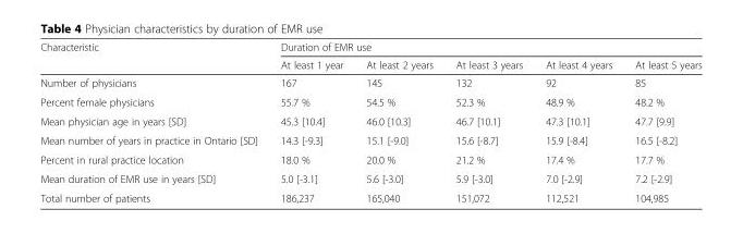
<table><thead><tr><td rowspan="2">Characteristic</td><td colspan="5">Duration of EMR use</td></tr><tr><td>At least 1 year</td><td>At least 2 years</td><td>At least 3 years</td><td>At least 4 years</td><td>At least 5 years</td></tr></thead><tbody><tr><td>Number of physicians</td><td>167</td><td>145</td><td>132</td><td>92</td><td>85</td></tr><tr><td>Percent female physicians</td><td>55.7 %</td><td>54.5 %</td><td>52.3 %</td><td>48.9 %</td><td>48.2 %</td></tr><tr><td>Mean physician age in years [SD]</td><td>45.3 [10.4]</td><td>46.0 [10.3]</td><td>46.7 [10.1]</td><td>47.3 [10.1]</td><td>47.7 [9.9]</td></tr><tr><td>Mean number of years in practice in Ontario [SD]</td><td>14.3 [-9.3]</td><td>15.1 [-9.0]</td><td>15.6 [-8.7]</td><td>15.9 [-8.4]</td><td>16.5 [-8.2]</td></tr><tr><td>Percent in rural practice location</td><td>18.0 %</td><td>20.0 %</td><td>21.2 %</td><td>17.4 %</td><td>17.7 %</td></tr><tr><td>Mean duration of EMR use in years [SD]</td><td>5.0 [-3.1]</td><td>5.6 [-3.0]</td><td>5.9 [-3.0]</td><td>7.0 [-2.9]</td><td>7.2 [-2.9]</td></tr><tr><td>Total number of patients</td><td>186,237</td><td>165,040</td><td>151,072</td><td>112,521</td><td>104,985</td></tr></tbody></table>